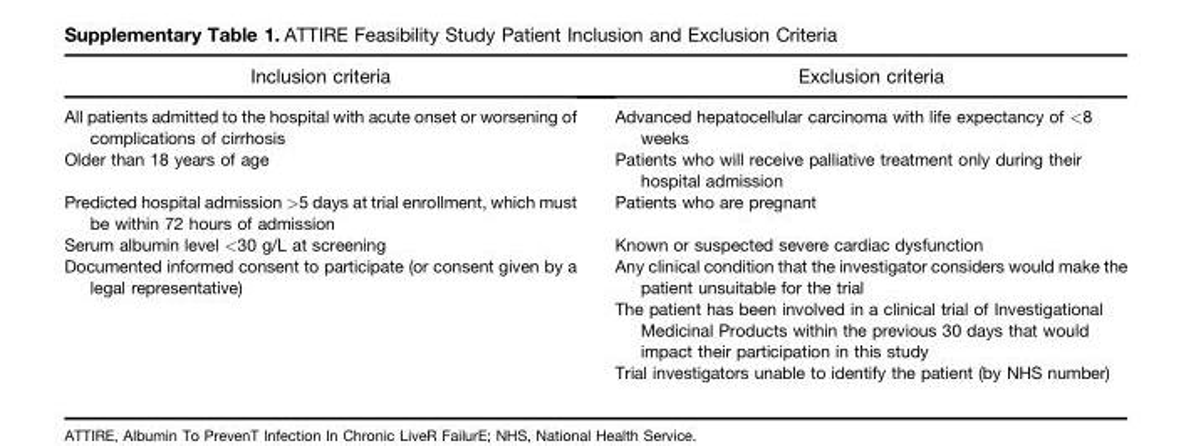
<table><thead><tr><td>Inclusion criteria</td><td>Exclusion criteria</td></tr></thead><tbody><tr><td>All patients admitted to the hospital with acute onset or worsening of complications of cirrhosis</td><td>Advanced hepatocellular carcinoma with life expectancy of &lt;8 weeks</td></tr><tr><td>Older than 18 years of age</td><td>Patients who will receive palliative treatment only during their hospital admission</td></tr><tr><td>Predicted hospital admission &gt;5 days at trial enrollment, which must be within 72 hours of admission</td><td>Patients who are pregnant</td></tr><tr><td>Serum albumin level &lt;30 g/L at screening</td><td>Known or suspected severe cardiac dysfunction</td></tr><tr><td rowspan="3">Documented informed consent to participate (or consent given by a legal representative)</td><td>Any clinical condition that the investigator considers would make the patient unsuitable for the trial</td></tr><tr><td>The patient has been involved in a clinical trial of Investigational Medicinal Products within the previous 30 days that would impact their participation in this study</td></tr><tr><td>Trial investigators unable to identify the patient (by NHS number)</td></tr></tbody></table>